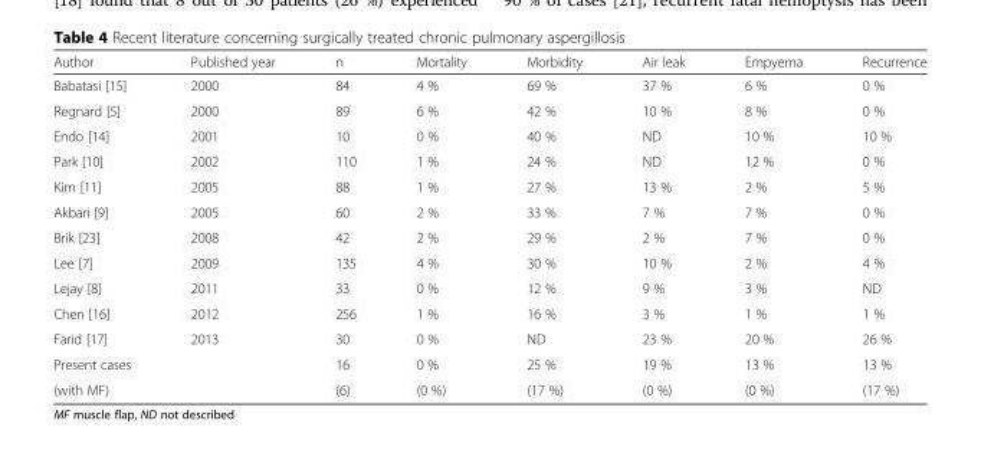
<table><thead><tr><td>Author</td><td>Published year</td><td>n</td><td>Mortality</td><td>Morbidity</td><td>Air leak</td><td>Empyema</td><td>Recurrence</td></tr></thead><tbody><tr><td>Babatasi [15]</td><td>2000</td><td>84</td><td>4 %</td><td>69 %</td><td>37 %</td><td>6 %</td><td>0 %</td></tr><tr><td>Regnard [5]</td><td>2000</td><td>89</td><td>6 %</td><td>42 %</td><td>10 %</td><td>8 %</td><td>0 %</td></tr><tr><td>Endo [14]</td><td>2001</td><td>10</td><td>0 %</td><td>40 %</td><td>ND</td><td>10 %</td><td>10 %</td></tr><tr><td>Park [10]</td><td>2002</td><td>110</td><td>1 %</td><td>24 %</td><td>ND</td><td>12 %</td><td>0 %</td></tr><tr><td>Kim [11]</td><td>2005</td><td>88</td><td>1 %</td><td>27 %</td><td>13 %</td><td>2 %</td><td>5 %</td></tr><tr><td>Akbari [9]</td><td>2005</td><td>60</td><td>2 %</td><td>33 %</td><td>7 %</td><td>7 %</td><td>0 %</td></tr><tr><td>Brik [23]</td><td>2008</td><td>42</td><td>2 %</td><td>29 %</td><td>2 %</td><td>7 %</td><td>0 %</td></tr><tr><td>Lee [7]</td><td>2009</td><td>135</td><td>4 %</td><td>30 %</td><td>10 %</td><td>2 %</td><td>4 %</td></tr><tr><td>Lejay [8]</td><td>2011</td><td>33</td><td>0 %</td><td>12 %</td><td>9 %</td><td>3 %</td><td>ND</td></tr><tr><td>Chen [16]</td><td>2012</td><td>256</td><td>1 %</td><td>16 %</td><td>3 %</td><td>1 %</td><td>1 %</td></tr><tr><td>Farid [17]</td><td>2013</td><td>30</td><td>0 %</td><td>ND</td><td>23 %</td><td>20 %</td><td>26 %</td></tr><tr><td>Present cases</td><td></td><td>16</td><td>0 %</td><td>25 %</td><td>19 %</td><td>13 %</td><td>13 %</td></tr><tr><td>(with MF)</td><td></td><td>(6)</td><td>(0 %)</td><td>(17 %)</td><td>(0 %)</td><td>(0 %)</td><td>(17 %)</td></tr></tbody></table>